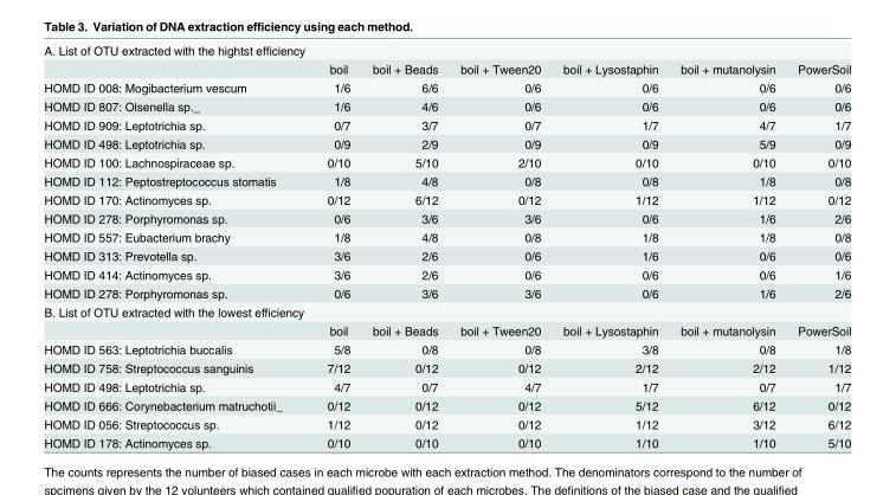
<table><tbody><tr><td colspan="7">A. List of OTU extracted with the hightst efficiency</td></tr><tr><td></td><td>boil</td><td>boil + Beads</td><td>boil + Tween20</td><td>boil + Lysostaphin</td><td>boil + mutanolysin</td><td>PowerSoil</td></tr><tr><td>HOMD ID 008: Mogibacterium vescum</td><td>1/6</td><td>6/6</td><td>0/6</td><td>0/6</td><td>0/6</td><td>0/6</td></tr><tr><td>HOMD ID 807: Olsenella sp._</td><td>1/6</td><td>4/6</td><td>0/6</td><td>0/6</td><td>0/6</td><td>0/6</td></tr><tr><td>HOMD ID 909: Leptotrichia sp.</td><td>0/7</td><td>3/7</td><td>0/7</td><td>1/7</td><td>4/7</td><td>1/7</td></tr><tr><td>HOMD ID 498: Leptotrichia sp.</td><td>0/9</td><td>2/9</td><td>0/9</td><td>0/9</td><td>5/9</td><td>0/9</td></tr><tr><td>HOMD ID 100: Lachnospiraceae sp.</td><td>0/10</td><td>5/10</td><td>2/10</td><td>0/10</td><td>0/10</td><td>0/10</td></tr><tr><td>HOMD ID 112: Peptostreptococcus stomatis</td><td>1/8</td><td>4/8</td><td>0/8</td><td>0/8</td><td>1/8</td><td>0/8</td></tr><tr><td>HOMD ID 170: Actinomyces sp.</td><td>0/12</td><td>6/12</td><td>0/12</td><td>1/12</td><td>1/12</td><td>0/12</td></tr><tr><td>HOMD ID 278: Porphyromonas sp.</td><td>0/6</td><td>3/6</td><td>3/6</td><td>0/6</td><td>1/6</td><td>2/6</td></tr><tr><td>HOMD ID 557: Eubacterium brachy</td><td>1/8</td><td>4/8</td><td>0/8</td><td>1/8</td><td>1/8</td><td>0/8</td></tr><tr><td>HOMD ID 313: Prevotella sp.</td><td>3/6</td><td>2/6</td><td>0/6</td><td>1/6</td><td>0/6</td><td>0/6</td></tr><tr><td>HOMD ID 414: Actinomyces sp.</td><td>3/6</td><td>2/6</td><td>0/6</td><td>0/6</td><td>0/6</td><td>1/6</td></tr><tr><td>HOMD ID 278: Porphyromonas sp.</td><td>0/6</td><td>3/6</td><td>3/6</td><td>0/6</td><td>1/6</td><td>2/6</td></tr><tr><td colspan="7">B. List of OTU extracted with the lowest efficiency</td></tr><tr><td></td><td>boil</td><td>boil + Beads</td><td>boil + Tween20</td><td>boil + Lysostaphin</td><td>boil + mutanolysin</td><td>PowerSoil</td></tr><tr><td>HOMD ID 563: Leptotrichia buccalis</td><td>5/8</td><td>0/8</td><td>0/8</td><td>3/8</td><td>0/8</td><td>1/8</td></tr><tr><td>HOMD ID 758: Streptococcus sanguinis</td><td>7/12</td><td>0/12</td><td>0/12</td><td>2/12</td><td>2/12</td><td>1/12</td></tr><tr><td>HOMD ID 498: Leptotrichia sp.</td><td>4/7</td><td>0/7</td><td>4/7</td><td>1/7</td><td>0/7</td><td>1/7</td></tr><tr><td>HOMD ID 666: Corynebacterium matruchotii_</td><td>0/12</td><td>0/12</td><td>0/12</td><td>5/12</td><td>6/12</td><td>0/12</td></tr><tr><td>HOMD ID 056: Streptococcus sp.</td><td>1/12</td><td>0/12</td><td>0/12</td><td>1/12</td><td>3/12</td><td>6/12</td></tr><tr><td>HOMD ID 178: Actinomyces sp.</td><td>0/10</td><td>0/10</td><td>0/10</td><td>1/10</td><td>1/10</td><td>5/10</td></tr></tbody></table>